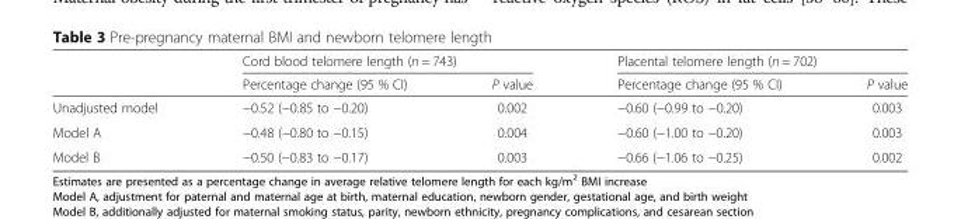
<table><thead><tr><td rowspan="2"></td><td colspan="2">Cord blood telomere length (n = 743)</td><td colspan="2">Placental telomere length (n = 702)</td></tr><tr><td>Percentage change (95 % CI)</td><td>P value</td><td>Percentage change (95 % CI)</td><td>P value</td></tr></thead><tbody><tr><td>Unadjusted model</td><td>−0.52 (−0.85 to −0.20)</td><td>0.002</td><td>−0.60 (−0.99 to −0.20)</td><td>0.003</td></tr><tr><td>Model A</td><td>−0.48 (−0.80 to −0.15)</td><td>0.004</td><td>−0.60 (−1.00 to −0.20)</td><td>0.003</td></tr><tr><td>Model B</td><td>−0.50 (−0.83 to −0.17)</td><td>0.003</td><td>−0.66 (−1.06 to −0.25)</td><td>0.002</td></tr></tbody></table>